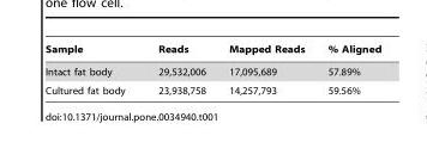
<table><thead><tr><td>Sample</td><td>Reads</td><td>Mapped Reads</td><td>% Aligned</td></tr></thead><tbody><tr><td>Intact fat body</td><td>29,532,006</td><td>17,095,689</td><td>57.89%</td></tr><tr><td>Cultured fat body</td><td>23,938,758</td><td>14,257,793</td><td>59.56%</td></tr></tbody></table>